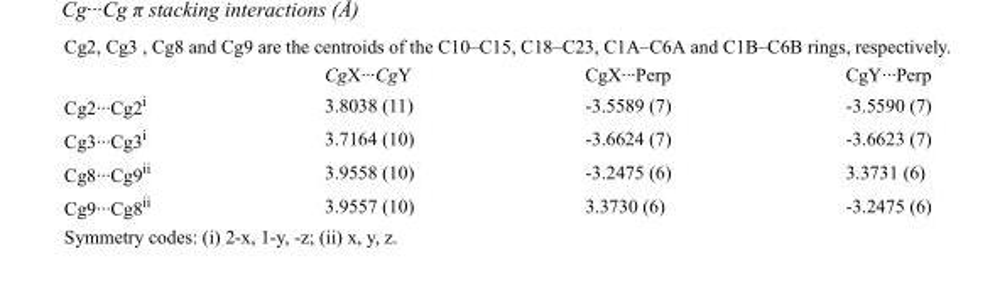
<table><thead><tr><td></td><td>CgX···CgY</td><td>CgX···Perp</td><td>CgY···Perp</td></tr></thead><tbody><tr><td>Cg2···Cg2<sup>i</sup></td><td>3.8038 (11)</td><td>-3.5589 (7)</td><td>-3.5590 (7)</td></tr><tr><td>Cg3···Cg3<sup>i</sup></td><td>3.7164 (10)</td><td>-3.6624 (7)</td><td>-3.6623 (7)</td></tr><tr><td>Cg8···Cg9<sup>ii</sup></td><td>3.9558 (10)</td><td>-3.2475 (6)</td><td>3.3731 (6)</td></tr><tr><td>Cg9···Cg8<sup>ii</sup></td><td>3.9557 (10)</td><td>3.3730 (6)</td><td>-3.2475 (6)</td></tr></tbody></table>